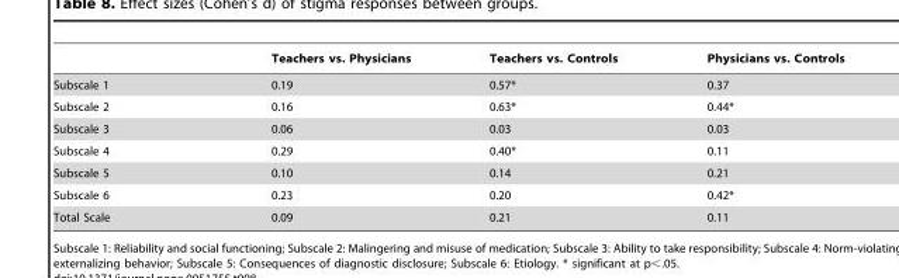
<table><thead><tr><td></td><td>Teachers vs. Physicians</td><td>Teachers vs. Controls</td><td>Physicians vs. Controls</td></tr></thead><tbody><tr><td>Subscale 1</td><td>0.19</td><td>0.57*</td><td>0.37</td></tr><tr><td>Subscale 2</td><td>0.16</td><td>0.63*</td><td>0.44*</td></tr><tr><td>Subscale 3</td><td>0.06</td><td>0.03</td><td>0.03</td></tr><tr><td>Subscale 4</td><td>0.29</td><td>0.40*</td><td>0.11</td></tr><tr><td>Subscale 5</td><td>0.10</td><td>0.14</td><td>0.21</td></tr><tr><td>Subscale 6</td><td>0.23</td><td>0.20</td><td>0.42*</td></tr><tr><td>Total Scale</td><td>0.09</td><td>0.21</td><td>0.11</td></tr></tbody></table>